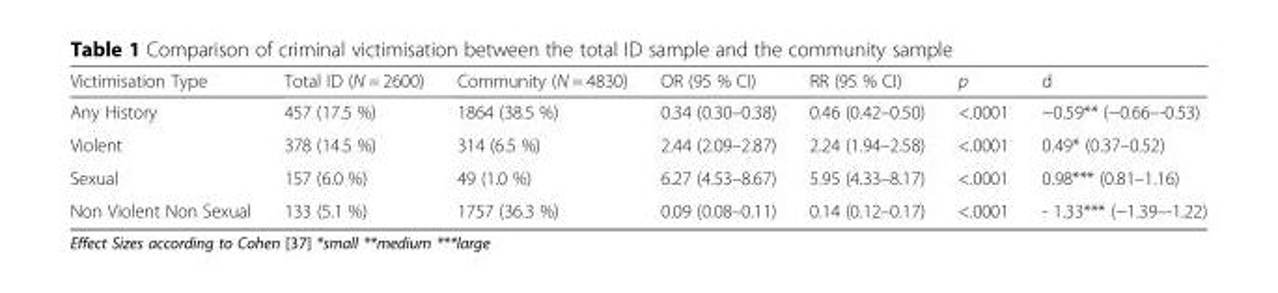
<table><thead><tr><td>Victimisation Type</td><td>Total ID (N = 2600)</td><td>Community (N = 4830)</td><td>OR (95 % CI)</td><td>RR (95 % CI)</td><td>p</td><td>d</td></tr></thead><tbody><tr><td>Any History</td><td>457 (17.5 %)</td><td>1864 (38.5 %)</td><td>0.34 (0.30–0.38)</td><td>0.46 (0.42–0.50)</td><td>&lt;.0001</td><td>−0.59** (−0.66–-0.53)</td></tr><tr><td>Violent</td><td>378 (14.5 %)</td><td>314 (6.5 %)</td><td>2.44 (2.09–2.87)</td><td>2.24 (1.94–2.58)</td><td>&lt;.0001</td><td>0.49* (0.37–0.52)</td></tr><tr><td>Sexual</td><td>157 (6.0 %)</td><td>49 (1.0 %)</td><td>6.27 (4.53–8.67)</td><td>5.95 (4.33–8.17)</td><td>&lt;.0001</td><td>0.98*** (0.81–1.16)</td></tr><tr><td>Non Violent Non Sexual</td><td>133 (5.1 %)</td><td>1757 (36.3 %)</td><td>0.09 (0.08–0.11)</td><td>0.14 (0.12–0.17)</td><td>&lt;.0001</td><td>- 1.33*** (−1.39–-1.22)</td></tr></tbody></table>